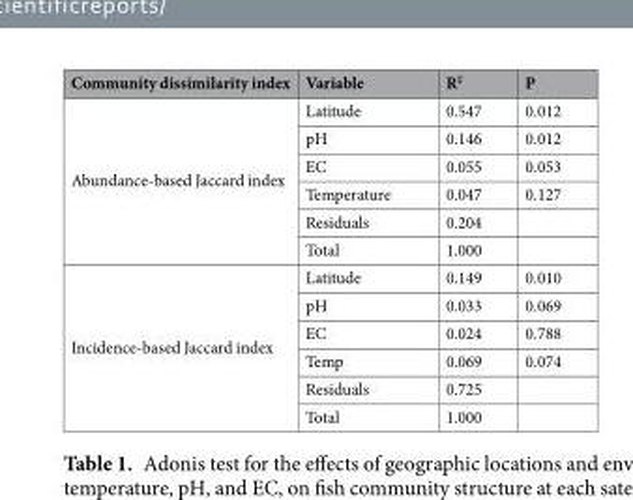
<table><thead><tr><td>Community dissimilarity index</td><td>Variable</td><td>R<sup>2</sup></td><td>P</td></tr></thead><tbody><tr><td rowspan="6">Abundance-based Jaccard index</td><td>Latitude</td><td>0.547</td><td>0.012</td></tr><tr><td>pH</td><td>0.146</td><td>0.012</td></tr><tr><td>EC</td><td>0.055</td><td>0.053</td></tr><tr><td>Temperature</td><td>0.047</td><td>0.127</td></tr><tr><td>Residuals</td><td>0.204</td><td></td></tr><tr><td>Total</td><td>1.000</td><td></td></tr><tr><td rowspan="6">Incidence-based Jaccard index</td><td>Latitude</td><td>0.149</td><td>0.010</td></tr><tr><td>pH</td><td>0.033</td><td>0.069</td></tr><tr><td>EC</td><td>0.024</td><td>0.788</td></tr><tr><td>Temp</td><td>0.069</td><td>0.074</td></tr><tr><td>Residuals</td><td>0.725</td><td></td></tr><tr><td>Total</td><td>1.000</td><td></td></tr></tbody></table>